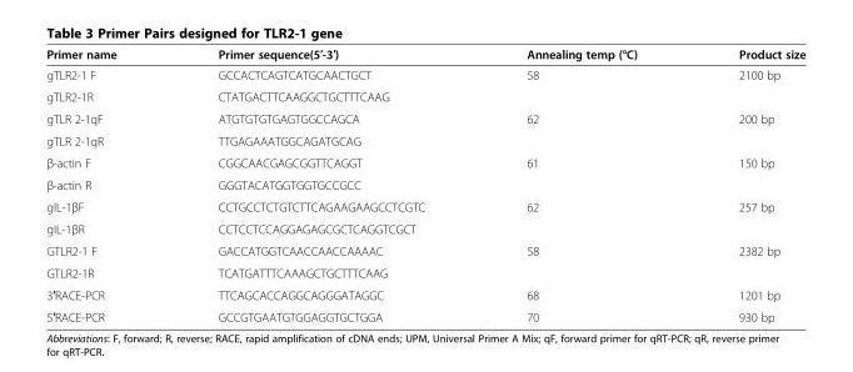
<table><thead><tr><td>Primer name</td><td>Primer sequence(5′-3′)</td><td>Annealing temp (°C)</td><td>Product size</td></tr></thead><tbody><tr><td>gTLR2-1 F</td><td>GCCACTCAGTCATGCAACTGCT</td><td rowspan="2">58</td><td rowspan="2">2100 bp</td></tr><tr><td>gTLR2-1R</td><td>CTATGACTTCAAGGCTGCTTTCAAG</td></tr><tr><td>gTLR 2-1qF</td><td>ATGTGTGTGAGTGGCCAGCA</td><td rowspan="2">62</td><td rowspan="2">200 bp</td></tr><tr><td>gTLR 2-1qR</td><td>TTGAGAAATGGCAGATGCAG</td></tr><tr><td>β-actin F</td><td>CGGCAACGAGCGGTTCAGGT</td><td rowspan="2">61</td><td rowspan="2">150 bp</td></tr><tr><td>β-actin R</td><td>GGGTACATGGTGGTGCCGCC</td></tr><tr><td>gIL-1βF</td><td>CCTGCCTCTGTCTTCAGAAGAAGCCTCGTC</td><td>62</td><td>257 bp</td></tr><tr><td>gIL-1βR</td><td>CCTCCTCCAGGAGAGCGCTCAGGTCGCT</td><td></td><td></td></tr><tr><td>GTLR2-1 F</td><td>GACCATGGTCAACCAACCAAAAC</td><td rowspan="2">58</td><td rowspan="2">2382 bp</td></tr><tr><td>GTLR2-1R</td><td>TCATGATTTCAAAGCTGCTTTCAAG</td></tr><tr><td>3′RACE-PCR</td><td>TTCAGCACCAGGCAGGGATAGGC</td><td>68</td><td>1201 bp</td></tr><tr><td>5′RACE-PCR</td><td>GCCGTGAATGTGGAGGTGCTGGA</td><td>70</td><td>930 bp</td></tr></tbody></table>